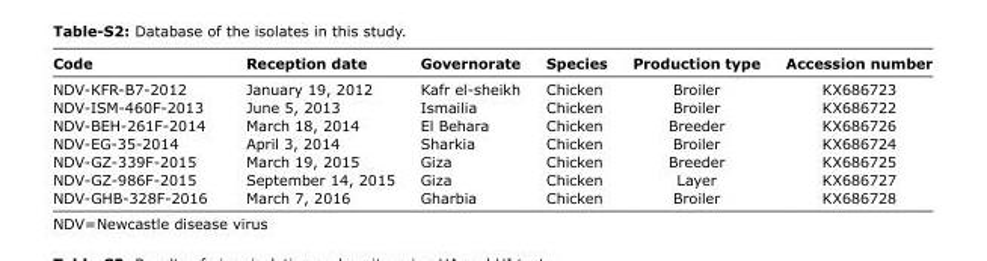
<table><thead><tr><td>Code</td><td>Reception date</td><td>Governorate</td><td>Species</td><td>Production type</td><td>Accession number</td></tr></thead><tbody><tr><td>NDV-KFR-B7-2012</td><td>January 19, 2012</td><td>Kafr el-sheikh</td><td>Chicken</td><td>Broiler</td><td>KX686723</td></tr><tr><td>NDV-ISM-460F-2013</td><td>June 5, 2013</td><td>Ismailia</td><td>Chicken</td><td>Broiler</td><td>KX686722</td></tr><tr><td>NDV-BEH-261F-2014</td><td>March 18, 2014</td><td>El Behara</td><td>Chicken</td><td>Breeder</td><td>KX686726</td></tr><tr><td>NDV-EG-35-2014</td><td>April 3, 2014</td><td>Sharkia</td><td>Chicken</td><td>Broiler</td><td>KX686724</td></tr><tr><td>NDV-GZ-339F-2015</td><td>March 19, 2015</td><td>Giza</td><td>Chicken</td><td>Breeder</td><td>KX686725</td></tr><tr><td>NDV-GZ-986F-2015</td><td>September 14, 2015</td><td>Giza</td><td>Chicken</td><td>Layer</td><td>KX686727</td></tr><tr><td>NDV-GHB-328F-2016</td><td>March 7, 2016</td><td>Gharbia</td><td>Chicken</td><td>Broiler</td><td>KX686728</td></tr></tbody></table>